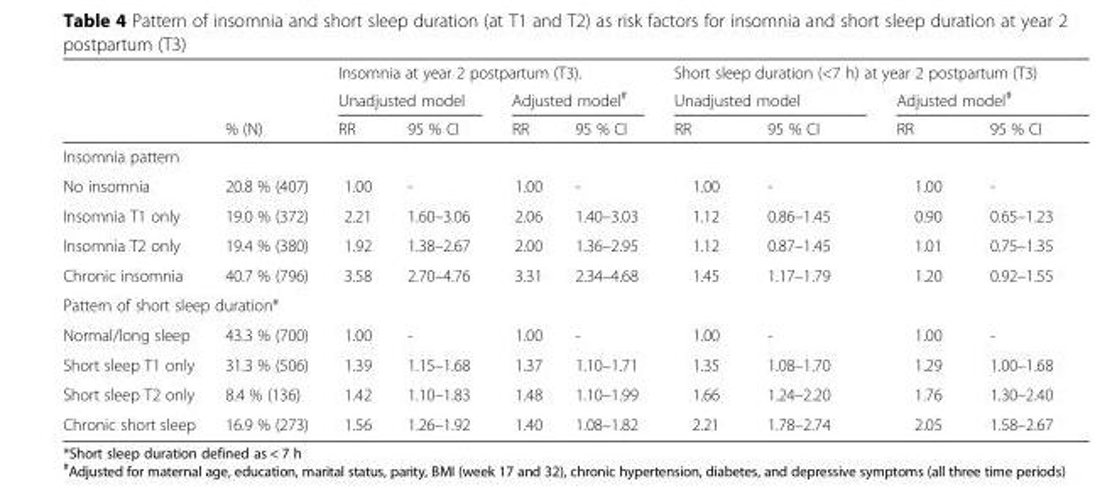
<table><thead><tr><td rowspan="3"></td><td rowspan="3">% (N)</td><td colspan="4">Insomnia at year 2 postpartum (T3).</td><td colspan="4">Short sleep duration (&lt;7 h) at year 2 postpartum (T3)</td></tr><tr><td colspan="2">Unadjusted model</td><td colspan="2">Adjusted model<sup>#</sup></td><td colspan="2">Unadjusted model</td><td colspan="2">Adjusted model<sup>#</sup></td></tr><tr><td>RR</td><td>95 % CI</td><td>RR</td><td>95 % CI</td><td>RR</td><td>95 % CI</td><td>RR</td><td>95 % CI</td></tr></thead><tbody><tr><td colspan="10">Insomnia pattern</td></tr><tr><td>No insomnia</td><td>20.8 % (407)</td><td>1.00</td><td>-</td><td>1.00</td><td>-</td><td>1.00</td><td>-</td><td>1.00</td><td>-</td></tr><tr><td>Insomnia T1 only</td><td>19.0 % (372)</td><td>2.21</td><td>1.60–3.06</td><td>2.06</td><td>1.40–3.03</td><td>1.12</td><td>0.86–1.45</td><td>0.90</td><td>0.65–1.23</td></tr><tr><td>Insomnia T2 only</td><td>19.4 % (380)</td><td>1.92</td><td>1.38–2.67</td><td>2.00</td><td>1.36–2.95</td><td>1.12</td><td>0.87–1.45</td><td>1.01</td><td>0.75–1.35</td></tr><tr><td>Chronic insomnia</td><td>40.7 % (796)</td><td>3.58</td><td>2.70–4.76</td><td>3.31</td><td>2.34–4.68</td><td>1.45</td><td>1.17–1.79</td><td>1.20</td><td>0.92–1.55</td></tr><tr><td colspan="10">Pattern of short sleep duration*</td></tr><tr><td>Normal/long sleep</td><td>43.3 % (700)</td><td>1.00</td><td>-</td><td>1.00</td><td>-</td><td>1.00</td><td>-</td><td>1.00</td><td>-</td></tr><tr><td>Short sleep T1 only</td><td>31.3 % (506)</td><td>1.39</td><td>1.15–1.68</td><td>1.37</td><td>1.10–1.71</td><td>1.35</td><td>1.08–1.70</td><td>1.29</td><td>1.00–1.68</td></tr><tr><td>Short sleep T2 only</td><td>8.4 % (136)</td><td>1.42</td><td>1.10–1.83</td><td>1.48</td><td>1.10–1.99</td><td>1.66</td><td>1.24–2.20</td><td>1.76</td><td>1.30–2.40</td></tr><tr><td>Chronic short sleep</td><td>16.9 % (273)</td><td>1.56</td><td>1.26–1.92</td><td>1.40</td><td>1.08–1.82</td><td>2.21</td><td>1.78–2.74</td><td>2.05</td><td>1.58–2.67</td></tr></tbody></table>